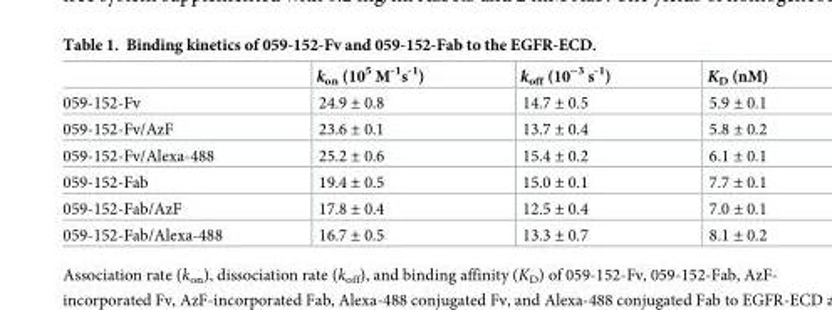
<table><thead><tr><td></td><td>k<sub>on</sub> (10<sup>5</sup> M<sup>-1</sup>s<sup>-1</sup>)</td><td>k<sub>off</sub> (10<sup>−3</sup> s<sup>-1</sup>)</td><td>K<sub>D</sub> (nM)</td></tr></thead><tbody><tr><td>059-152-Fv</td><td>24.9 ± 0.8</td><td>14.7 ± 0.5</td><td>5.9 ± 0.1</td></tr><tr><td>059-152-Fv/AzF</td><td>23.6 ± 0.1</td><td>13.7 ± 0.4</td><td>5.8 ± 0.2</td></tr><tr><td>059-152-Fv/Alexa-488</td><td>25.2 ± 0.6</td><td>15.4 ± 0.2</td><td>6.1 ± 0.1</td></tr><tr><td>059-152-Fab</td><td>19.4 ± 0.5</td><td>15.0 ± 0.1</td><td>7.7 ± 0.1</td></tr><tr><td>059-152-Fab/AzF</td><td>17.8 ± 0.4</td><td>12.5 ± 0.4</td><td>7.0 ± 0.1</td></tr><tr><td>059-152-Fab/Alexa-488</td><td>16.7 ± 0.5</td><td>13.3 ± 0.7</td><td>8.1 ± 0.2</td></tr></tbody></table>